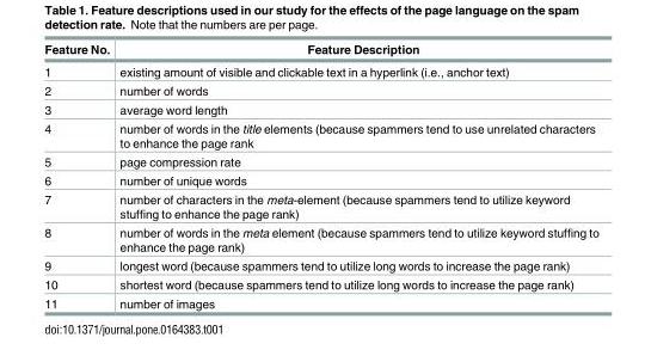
<table><thead><tr><td>Feature No.</td><td>Feature Description</td></tr></thead><tbody><tr><td>1</td><td>existing amount of visible and clickable text in a hyperlink (i.e., anchor text)</td></tr><tr><td>2</td><td>number of words</td></tr><tr><td>3</td><td>average word length</td></tr><tr><td>4</td><td>number of words in the title elements (because spammers tend to use unrelated characters to enhance the page rank</td></tr><tr><td>5</td><td>page compression rate</td></tr><tr><td>6</td><td>number of unique words</td></tr><tr><td>7</td><td>number of characters in the meta-element (because spammers tend to utilize keyword stuffing to enhance the page rank)</td></tr><tr><td>8</td><td>number of words in the meta element (because spammers tend to utilize keyword stuffing to enhance the page rank)</td></tr><tr><td>9</td><td>longest word (because spammers tend to utilize long words to increase the page rank)</td></tr><tr><td>10</td><td>shortest word (because spammers tend to utilize long words to increase the page rank)</td></tr><tr><td>11</td><td>number of images</td></tr></tbody></table>